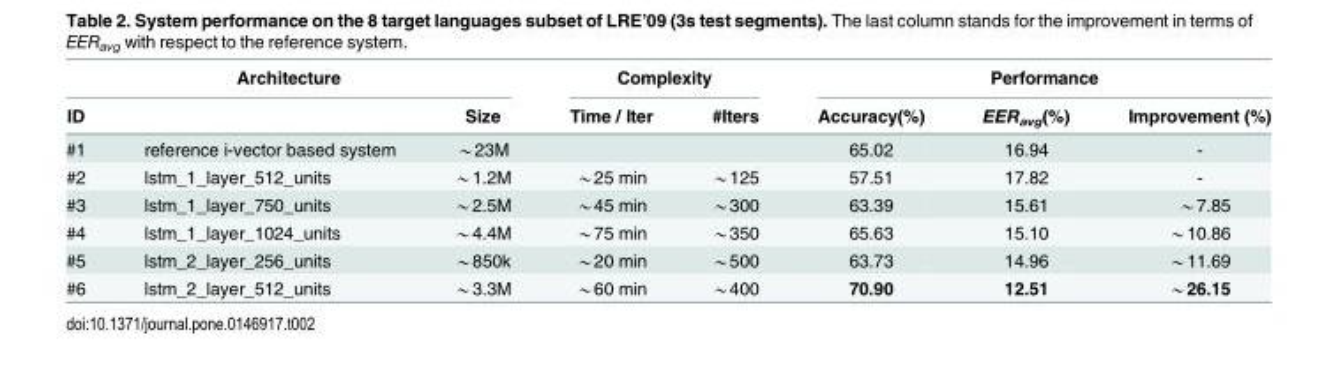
<table><thead><tr><td colspan="3">Architecture</td><td colspan="2">Complexity</td><td colspan="3">Performance</td></tr><tr><td>ID</td><td></td><td>Size</td><td>Time / Iter</td><td>#Iters</td><td>Accuracy(%)</td><td>EER<sub>avg</sub>(%)</td><td>Improvement (%)</td></tr></thead><tbody><tr><td>#1</td><td>reference i-vector based system</td><td>*23M</td><td></td><td></td><td>65.02</td><td>16.94</td><td>-</td></tr><tr><td>#2</td><td>lstm_1_layer_512_units</td><td>*1.2M</td><td>*25 min</td><td>*125</td><td>57.51</td><td>17.82</td><td>-</td></tr><tr><td>#3</td><td>lstm_1_layer_750_units</td><td>*2.5M</td><td>*45 min</td><td>*300</td><td>63.39</td><td>15.61</td><td>*7.85</td></tr><tr><td>#4</td><td>lstm_1_layer_1024_units</td><td>*4.4M</td><td>*75 min</td><td>*350</td><td>65.63</td><td>15.10</td><td>*10.86</td></tr><tr><td>#5</td><td>lstm_2_layer_256_units</td><td>*850k</td><td>*20 min</td><td>*500</td><td>63.73</td><td>14.96</td><td>*11.69</td></tr><tr><td>#6</td><td>lstm_2_layer_512_units</td><td>*3.3M</td><td>*60 min</td><td>*400</td><td>70.90</td><td>12.51</td><td>*26.15</td></tr></tbody></table>